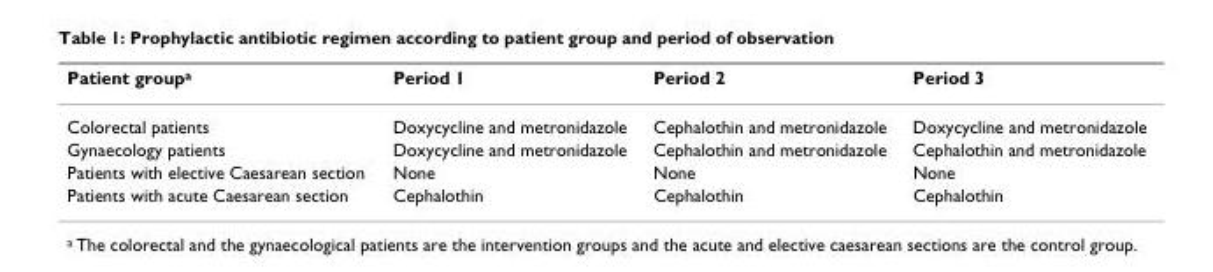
<table><thead><tr><td>Patient group<sup>a</sup></td><td>Period 1</td><td>Period 2</td><td>Period 3</td></tr></thead><tbody><tr><td>Colorectal patients</td><td>Doxycycline and metronidazole</td><td>Cephalothin and metronidazole</td><td>Doxycycline and metronidazole</td></tr><tr><td>Gynaecology patients</td><td>Doxycycline and metronidazole</td><td>Cephalothin and metronidazole</td><td>Cephalothin and metronidazole</td></tr><tr><td>Patients with elective Caesarean section</td><td>None</td><td>None</td><td>None</td></tr><tr><td>Patients with acute Caesarean section</td><td>Cephalothin</td><td>Cephalothin</td><td>Cephalothin</td></tr></tbody></table>